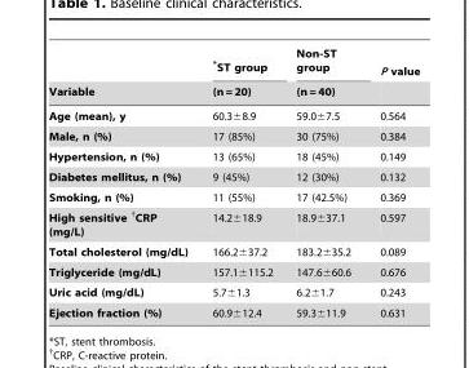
<table><thead><tr><td rowspan="2">Variable</td><td rowspan="2">*ST group (n = 20)</td><td rowspan="2">Non-ST group (n = 40)</td><td rowspan="2">P value</td></tr><tr></tr></thead><tbody><tr><td>Age (mean), y</td><td>60.3±8.9</td><td>59.0±7.5</td><td>0.564</td></tr><tr><td>Male, n (%)</td><td>17 (85%)</td><td>30 (75%)</td><td>0.384</td></tr><tr><td>Hypertension, n (%)</td><td>13 (65%)</td><td>18 (45%)</td><td>0.149</td></tr><tr><td>Diabetes mellitus, n (%)</td><td>9 (45%)</td><td>12 (30%)</td><td>0.132</td></tr><tr><td>Smoking, n (%)</td><td>11 (55%)</td><td>17 (42.5%)</td><td>0.369</td></tr><tr><td>High sensitive †CRP (mg/L)</td><td>14.2±18.9</td><td>18.9±37.1</td><td>0.597</td></tr><tr><td>Total cholesterol (mg/dL)</td><td>166.2±37.2</td><td>183.2±35.2</td><td>0.089</td></tr><tr><td>Triglyceride (mg/dL)</td><td>157.1±115.2</td><td>147.6±60.6</td><td>0.676</td></tr><tr><td>Uric acid (mg/dL)</td><td>5.7±1.3</td><td>6.2±1.7</td><td>0.243</td></tr><tr><td>Ejection fraction (%)</td><td>60.9±12.4</td><td>59.3±11.9</td><td>0.631</td></tr></tbody></table>